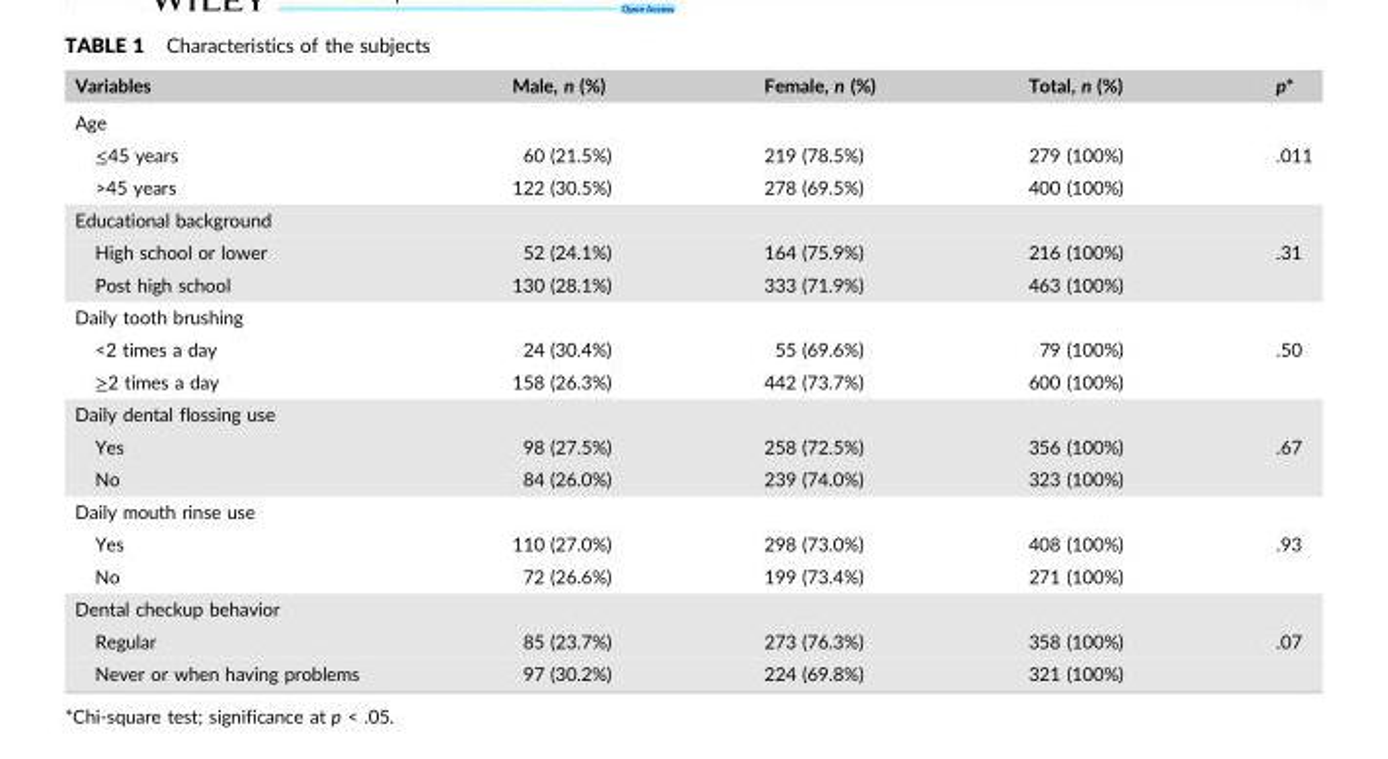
<table><thead><tr><td>Variables</td><td>Male, n (%)</td><td>Female, n (%)</td><td>Total, n (%)</td><td>p*</td></tr></thead><tbody><tr><td colspan="5">Age</td></tr><tr><td>≤45 years</td><td>60 (21.5%)</td><td>219 (78.5%)</td><td>279 (100%)</td><td>.011</td></tr><tr><td>&gt;45 years</td><td>122 (30.5%)</td><td>278 (69.5%)</td><td>400 (100%)</td><td></td></tr><tr><td colspan="5">Educational background</td></tr><tr><td>High school or lower</td><td>52 (24.1%)</td><td>164 (75.9%)</td><td>216 (100%)</td><td>.31</td></tr><tr><td>Post high school</td><td>130 (28.1%)</td><td>333 (71.9%)</td><td>463 (100%)</td><td></td></tr><tr><td colspan="5">Daily tooth brushing</td></tr><tr><td>&lt;2 times a day</td><td>24 (30.4%)</td><td>55 (69.6%)</td><td>79 (100%)</td><td>.50</td></tr><tr><td>≥2 times a day</td><td>158 (26.3%)</td><td>442 (73.7%)</td><td>600 (100%)</td><td></td></tr><tr><td colspan="5">Daily dental flossing use</td></tr><tr><td>Yes</td><td>98 (27.5%)</td><td>258 (72.5%)</td><td>356 (100%)</td><td>.67</td></tr><tr><td>No</td><td>84 (26.0%)</td><td>239 (74.0%)</td><td>323 (100%)</td><td></td></tr><tr><td colspan="5">Daily mouth rinse use</td></tr><tr><td>Yes</td><td>110 (27.0%)</td><td>298 (73.0%)</td><td>408 (100%)</td><td>.93</td></tr><tr><td>No</td><td>72 (26.6%)</td><td>199 (73.4%)</td><td>271 (100%)</td><td></td></tr><tr><td colspan="5">Dental checkup behavior</td></tr><tr><td>Regular</td><td>85 (23.7%)</td><td>273 (76.3%)</td><td>358 (100%)</td><td>.07</td></tr><tr><td>Never or when having problems</td><td>97 (30.2%)</td><td>224 (69.8%)</td><td>321 (100%)</td><td></td></tr></tbody></table>